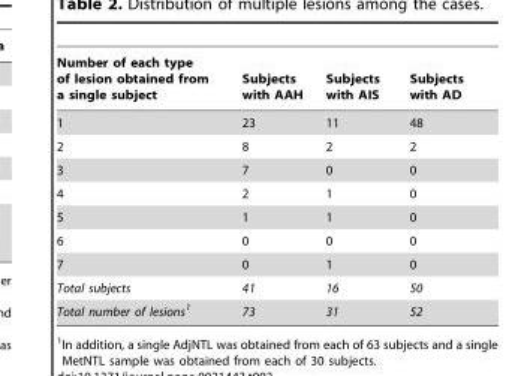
<table><thead><tr><td>Number of each type of lesion obtained from a single subject</td><td>Subjects with AAH</td><td>Subjects with AIS</td><td>Subjects with AD</td></tr></thead><tbody><tr><td>1</td><td>23</td><td>11</td><td>48</td></tr><tr><td>2</td><td>8</td><td>2</td><td>2</td></tr><tr><td>3</td><td>7</td><td>0</td><td>0</td></tr><tr><td>4</td><td>2</td><td>1</td><td>0</td></tr><tr><td>5</td><td>1</td><td>1</td><td>0</td></tr><tr><td>6</td><td>0</td><td>0</td><td>0</td></tr><tr><td>7</td><td>0</td><td>1</td><td>0</td></tr><tr><td>Total subjects</td><td>41</td><td>16</td><td>50</td></tr><tr><td>Total number of lesions1</td><td>73</td><td>31</td><td>52</td></tr></tbody></table>